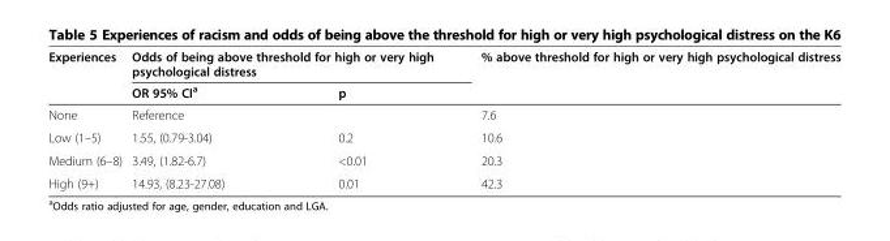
<table><thead><tr><td rowspan="2">Experiences</td><td colspan="2">Odds of being above threshold for high or very high psychological distress</td><td rowspan="2">% above threshold for high or very high psychological distress</td></tr><tr><td>OR 95% CI<sup>a</sup></td><td>p</td></tr></thead><tbody><tr><td>None</td><td>Reference</td><td></td><td>7.6</td></tr><tr><td>Low (1–5)</td><td>1.55, (0.79-3.04)</td><td>0.2</td><td>10.6</td></tr><tr><td>Medium (6–8)</td><td>3.49, (1.82-6.7)</td><td>&lt;0.01</td><td>20.3</td></tr><tr><td>High (9+)</td><td>14.93, (8.23-27.08)</td><td>0.01</td><td>42.3</td></tr></tbody></table>